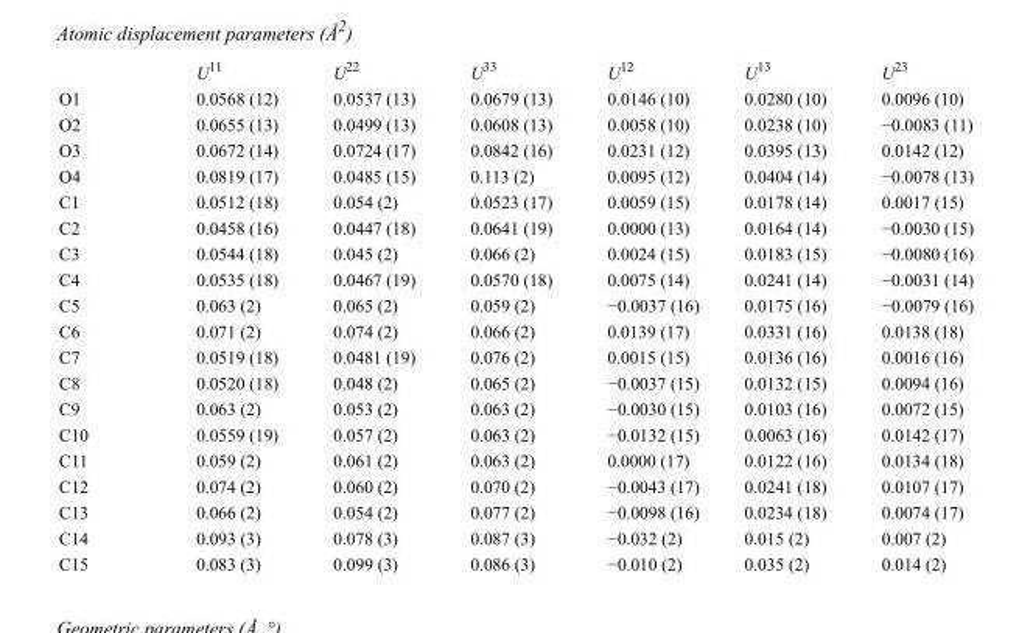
<table><thead><tr><td></td><td>U<sup>11</sup></td><td>U<sup>22</sup></td><td>U<sup>33</sup></td><td>U<sup>12</sup></td><td>U<sup>13</sup></td><td>U<sup>23</sup></td></tr></thead><tbody><tr><td>O1</td><td>0.0568 (12)</td><td>0.0537 (13)</td><td>0.0679 (13)</td><td>0.0146 (10)</td><td>0.0280 (10)</td><td>0.0096 (10)</td></tr><tr><td>O2</td><td>0.0655 (13)</td><td>0.0499 (13)</td><td>0.0608 (13)</td><td>0.0058 (10)</td><td>0.0238 (10)</td><td>−0.0083 (11)</td></tr><tr><td>O3</td><td>0.0672 (14)</td><td>0.0724 (17)</td><td>0.0842 (16)</td><td>0.0231 (12)</td><td>0.0395 (13)</td><td>0.0142 (12)</td></tr><tr><td>O4</td><td>0.0819 (17)</td><td>0.0485 (15)</td><td>0.113 (2)</td><td>0.0095 (12)</td><td>0.0404 (14)</td><td>−0.0078 (13)</td></tr><tr><td>C1</td><td>0.0512 (18)</td><td>0.054 (2)</td><td>0.0523 (17)</td><td>0.0059 (15)</td><td>0.0178 (14)</td><td>0.0017 (15)</td></tr><tr><td>C2</td><td>0.0458 (16)</td><td>0.0447 (18)</td><td>0.0641 (19)</td><td>0.0000 (13)</td><td>0.0164 (14)</td><td>−0.0030 (15)</td></tr><tr><td>C3</td><td>0.0544 (18)</td><td>0.045 (2)</td><td>0.066 (2)</td><td>0.0024 (15)</td><td>0.0183 (15)</td><td>−0.0080 (16)</td></tr><tr><td>C4</td><td>0.0535 (18)</td><td>0.0467 (19)</td><td>0.0570 (18)</td><td>0.0075 (14)</td><td>0.0241 (14)</td><td>−0.0031 (14)</td></tr><tr><td>C5</td><td>0.063 (2)</td><td>0.065 (2)</td><td>0.059 (2)</td><td>−0.0037 (16)</td><td>0.0175 (16)</td><td>−0.0079 (16)</td></tr><tr><td>C6</td><td>0.071 (2)</td><td>0.074 (2)</td><td>0.066 (2)</td><td>0.0139 (17)</td><td>0.0331 (16)</td><td>0.0138 (18)</td></tr><tr><td>C7</td><td>0.0519 (18)</td><td>0.0481 (19)</td><td>0.076 (2)</td><td>0.0015 (15)</td><td>0.0136 (16)</td><td>0.0016 (16)</td></tr><tr><td>C8</td><td>0.0520 (18)</td><td>0.048 (2)</td><td>0.065 (2)</td><td>−0.0037 (15)</td><td>0.0132 (15)</td><td>0.0094 (16)</td></tr><tr><td>C9</td><td>0.063 (2)</td><td>0.053 (2)</td><td>0.063 (2)</td><td>−0.0030 (15)</td><td>0.0103 (16)</td><td>0.0072 (15)</td></tr><tr><td>C10</td><td>0.0559 (19)</td><td>0.057 (2)</td><td>0.063 (2)</td><td>−0.0132 (15)</td><td>0.0063 (16)</td><td>0.0142 (17)</td></tr><tr><td>C11</td><td>0.059 (2)</td><td>0.061 (2)</td><td>0.063 (2)</td><td>0.0000 (17)</td><td>0.0122 (16)</td><td>0.0134 (18)</td></tr><tr><td>C12</td><td>0.074 (2)</td><td>0.060 (2)</td><td>0.070 (2)</td><td>−0.0043 (17)</td><td>0.0241 (18)</td><td>0.0107 (17)</td></tr><tr><td>C13</td><td>0.066 (2)</td><td>0.054 (2)</td><td>0.077 (2)</td><td>−0.0098 (16)</td><td>0.0234 (18)</td><td>0.0074 (17)</td></tr><tr><td>C14</td><td>0.093 (3)</td><td>0.078 (3)</td><td>0.087 (3)</td><td>−0.032 (2)</td><td>0.015 (2)</td><td>0.007 (2)</td></tr><tr><td>C15</td><td>0.083 (3)</td><td>0.099 (3)</td><td>0.086 (3)</td><td>−0.010 (2)</td><td>0.035 (2)</td><td>0.014 (2)</td></tr></tbody></table>